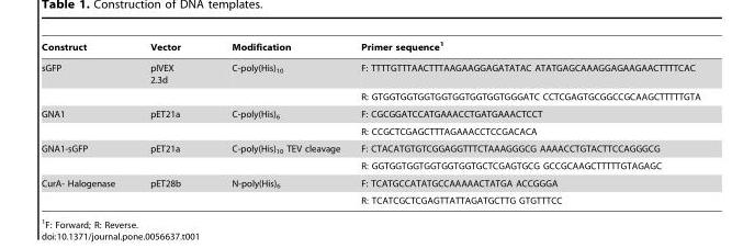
<table><thead><tr><td>Construct</td><td>Vector</td><td>Modification</td><td>Primer sequence<sup>1</sup></td></tr></thead><tbody><tr><td rowspan="2">sGFP</td><td>pIVEX 2.3d</td><td>C-poly(His)<sub>10</sub></td><td>F: TTTTGTTTAACTTTAAGAAGGAGATATAC ATATGAGCAAAGGAGAAGAACTTTTCAC</td></tr><tr><td></td><td></td><td>R: GTGGTGGTGGTGGTGGTGGTGGTGGGATC CCTCGAGTGCGGCCGCAAGCTTTTTGTA</td></tr><tr><td rowspan="2">GNA1</td><td>pET21a</td><td>C-poly(His)<sub>6</sub></td><td>F: CGCGGATCCATGAAACCTGATGAAACTCCT</td></tr><tr><td></td><td></td><td>R: CCGCTCGAGCTTTAGAAACCTCCGACACA</td></tr><tr><td rowspan="2">GNA1-sGFP</td><td>pET21a</td><td>C-poly(His)<sub>10</sub> TEV cleavage</td><td>F: CTACATGTGTCGGAGGTTTCTAAAGGGCG AAAACCTGTACTTCCAGGGCG</td></tr><tr><td></td><td></td><td>R: GGTGGTGGTGGTGGTGGTGCTCGAGTGCG GCCGCAAGCTTTTTGTAGAGC</td></tr><tr><td rowspan="2">CurA- Halogenase</td><td>pET28b</td><td>N-poly(His)<sub>6</sub></td><td>F: TCATGCCATATGCCAAAAACTATGA ACCGGGA</td></tr><tr><td></td><td></td><td>R: TCATCGCTCGAGTTATTAGATGCTTG GTGTTTCC</td></tr></tbody></table>